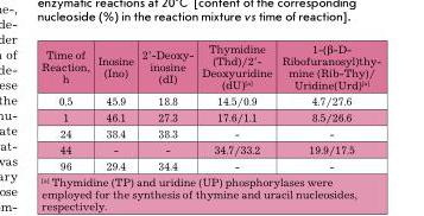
<table><tbody><tr><td>Time of Reaction, h</td><td>Inosine (Ino)</td><td>2’-Deoxy- inosine (dI)</td><td>Thymidine (Thd)/2’- Deoxyuridine (dU)[a]</td><td>1-(β-D- Ribofuranosyl)thy- mine (Rib-Thy)/ Uridine(Urd)[a]</td></tr><tr><td>0.5</td><td>45.9</td><td>18.8</td><td>14.5/0.9</td><td>4.7/27.6</td></tr><tr><td>1</td><td>46.1</td><td>27.3</td><td>17.6/1.1</td><td>8.5/26.6</td></tr><tr><td>24</td><td>38.4</td><td>38.3</td><td>-</td><td>-</td></tr><tr><td>44</td><td>-</td><td>-</td><td>34.7/33.2</td><td>19.9/17.5</td></tr><tr><td>96</td><td>29.4</td><td>34.4</td><td>-</td><td>-</td></tr></tbody></table>